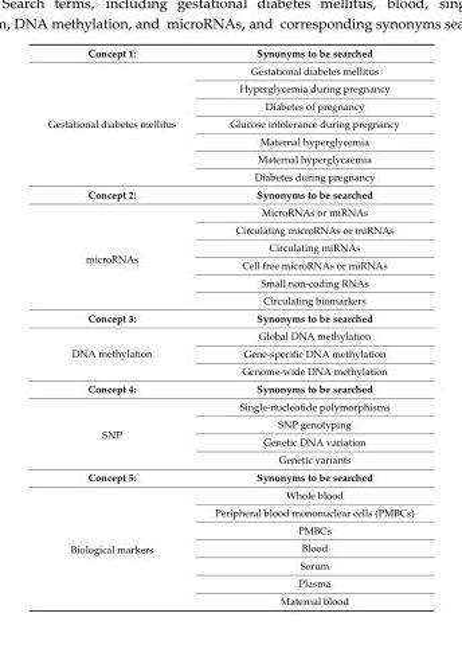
<table><tbody><tr><td>Concept 1:</td><td>Synonyms to be searched</td></tr><tr><td rowspan="7">Gestational diabetes mellitus</td><td>Gestational diabetes mellitus</td></tr><tr><td>Hyperglycemia during pregnancy</td></tr><tr><td>Diabetes of pregnancy</td></tr><tr><td>Glucose intolerance during pregnancy</td></tr><tr><td>Maternal hyperglycemia</td></tr><tr><td>Maternal hyperglycaemia</td></tr><tr><td>Diabetes during pregnancy</td></tr><tr><td>Concept 2:</td><td>Synonyms to be searched</td></tr><tr><td rowspan="6">microRNAs</td><td>MicroRNAs or miRNAs</td></tr><tr><td>Circulating microRNAs or miRNAs</td></tr><tr><td>Circulating miRNAs</td></tr><tr><td>Cell free microRNAs or miRNAs</td></tr><tr><td>Small non-coding RNAs</td></tr><tr><td>Circulating biomarkers</td></tr><tr><td>Concept 3:</td><td>Synonyms to be searched</td></tr><tr><td rowspan="3">DNA methylation</td><td>Global DNA methylation</td></tr><tr><td>Gene-specific DNA methylation</td></tr><tr><td>Genome-wide DNA methylation</td></tr><tr><td>Concept 4:</td><td>Synonyms to be searched</td></tr><tr><td rowspan="4">SNP</td><td>Single-nucleotide polymorphisms</td></tr><tr><td>SNP genotyping</td></tr><tr><td>Genetic DNA variation</td></tr><tr><td>Genetic variants</td></tr><tr><td>Concept 5:</td><td>Synonyms to be searched</td></tr><tr><td rowspan="7">Biological markers</td><td>Whole blood</td></tr><tr><td>Peripheral blood mononuclear cells (PMBCs)</td></tr><tr><td>PMBCs</td></tr><tr><td>Blood</td></tr><tr><td>Serum</td></tr><tr><td>Plasma</td></tr><tr><td>Maternal blood</td></tr></tbody></table>